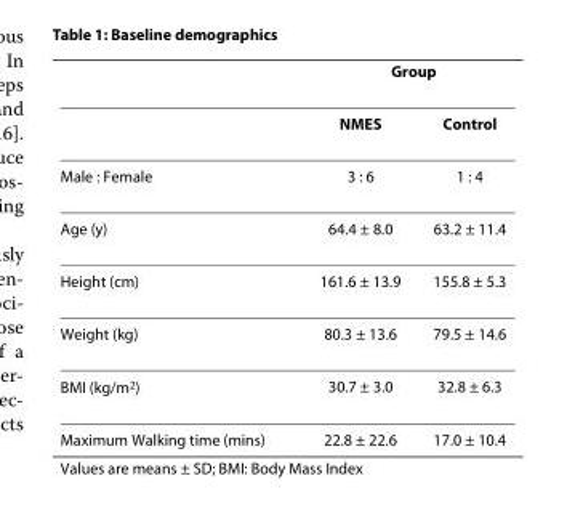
<table><thead><tr><td rowspan="2"></td><td colspan="2">Group</td></tr><tr><td>NMES</td><td>Control</td></tr></thead><tbody><tr><td>Male : Female</td><td>3 : 6</td><td>1 : 4</td></tr><tr><td>Age (y)</td><td>64.4 ± 8.0</td><td>63.2 ± 11.4</td></tr><tr><td>Height (cm)</td><td>161.6 ± 13.9</td><td>155.8 ± 5.3</td></tr><tr><td>Weight (kg)</td><td>80.3 ± 13.6</td><td>79.5 ± 14.6</td></tr><tr><td>BMI (kg/m<sup>2</sup>)</td><td>30.7 ± 3.0</td><td>32.8 ± 6.3</td></tr><tr><td>Maximum Walking time (mins)</td><td>22.8 ± 22.6</td><td>17.0 ± 10.4</td></tr></tbody></table>